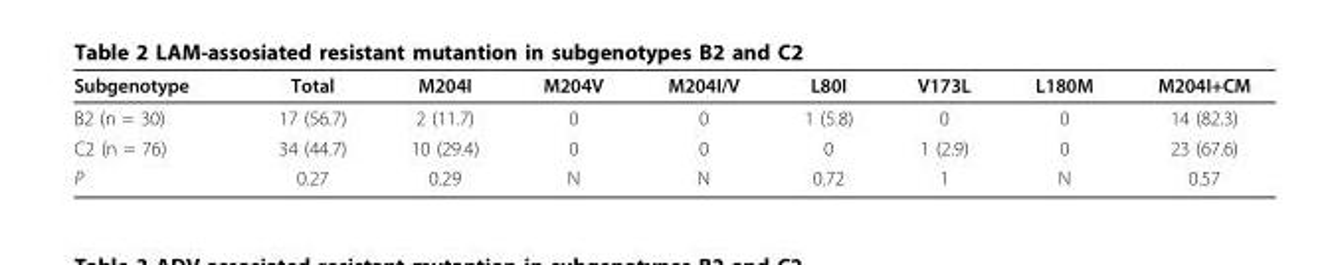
<table><thead><tr><td>Subgenotype</td><td>Total</td><td>M204I</td><td>M204V</td><td>M204I/V</td><td>L80I</td><td>V173L</td><td>L180M</td><td>M204I+CM</td></tr></thead><tbody><tr><td>B2 (n = 30)</td><td>17 (56.7)</td><td>2 (11.7)</td><td>0</td><td>0</td><td>1 (5.8)</td><td>0</td><td>0</td><td>14 (82.3)</td></tr><tr><td>C2 (n = 76)</td><td>34 (44.7)</td><td>10 (29.4)</td><td>0</td><td>0</td><td>0</td><td>1 (2.9)</td><td>0</td><td>23 (67.6)</td></tr><tr><td>P</td><td>0.27</td><td>0.29</td><td>N</td><td>N</td><td>0.72</td><td>1</td><td>N</td><td>0.57</td></tr></tbody></table>